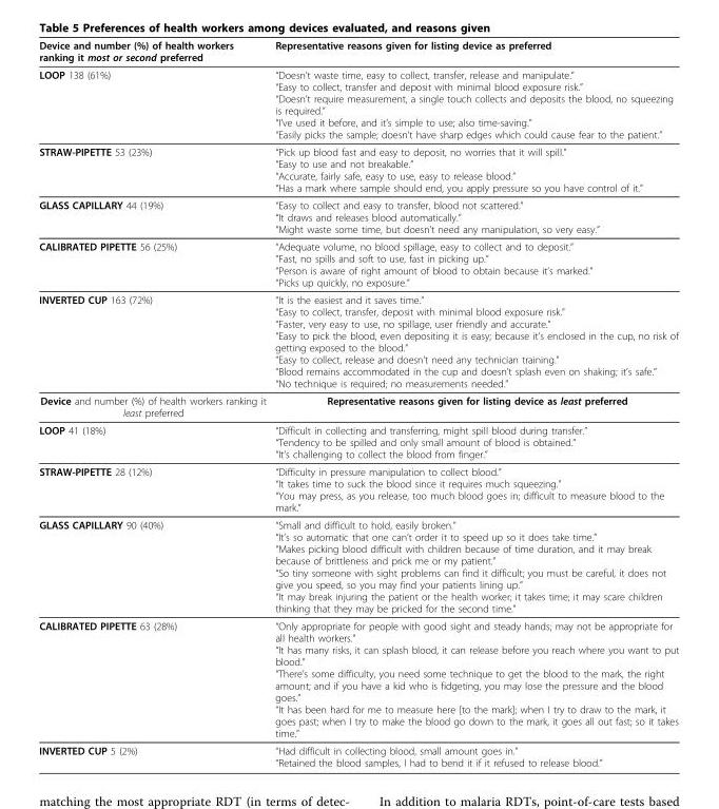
<table><thead><tr><td>Device and number (%) of health workers ranking it most or second preferred</td><td>Representative reasons given for listing device as preferred</td></tr></thead><tbody><tr><td>LOOP 138 (61%)</td><td>“Doesn’t waste time, easy to collect, transfer, release and manipulate.” “Easy to collect, transfer and deposit with minimal blood exposure risk.” “Doesn’t require measurement, a single touch collects and deposits the blood, no squeezing is required.” “I’ve used it before, and it’s simple to use; also time-saving.” “Easily picks the sample; doesn’t have sharp edges which could cause fear to the patient.”</td></tr><tr><td>STRAW-PIPETTE 53 (23%)</td><td>“Pick up blood fast and easy to deposit, no worries that it will spill.” “Easy to use and not breakable.” “Accurate, fairly safe, easy to use, easy to release blood.” “Has a mark where sample should end, you apply pressure so you have control of it.”</td></tr><tr><td>GLASS CAPILLARY 44 (19%)</td><td>“Easy to collect and easy to transfer, blood not scattered.” “It draws and releases blood automatically.” “Might waste some time, but doesn’t need any manipulation, so very easy.”</td></tr><tr><td>CALIBRATED PIPETTE 56 (25%)</td><td>“Adequate volume, no blood spillage, easy to collect and to deposit.” “Fast, no spills and soft to use, fast in picking up.” “Person is aware of right amount of blood to obtain because it’s marked.” “Picks up quickly, no exposure.”</td></tr><tr><td>INVERTED CUP 163 (72%)</td><td>“It is the easiest and it saves time.” “Easy to collect, transfer, deposit with minimal blood exposure risk.” “Faster, very easy to use, no spillage, user friendly and accurate.” “Easy to pick the blood, even depositing it is easy; because it’s enclosed in the cup, no risk of getting exposed to the blood.” “Easy to collect, release and doesn’t need any technician training.” “Blood remains accommodated in the cup and doesn’t splash even on shaking; it’s safe.” “No technique is required; no measurements needed.”</td></tr><tr><td>Device and number (%) of health workers ranking it least preferred</td><td>Representative reasons given for listing device as least preferred</td></tr><tr><td>LOOP 41 (18%)</td><td>“Difficult in collecting and transferring, might spill blood during transfer.” “Tendency to be spilled and only small amount of blood is obtained.” “It’s challenging to collect the blood from finger.”</td></tr><tr><td>STRAW-PIPETTE 28 (12%)</td><td>“Difficulty in pressure manipulation to collect blood.” “It takes time to suck the blood since it requires much squeezing.” “You may press, as you release, too much blood goes in; difficult to measure blood to the mark.”</td></tr><tr><td>GLASS CAPILLARY 90 (40%)</td><td>“Small and difficult to hold, easily broken.” “It’s so automatic that one can’t order it to speed up so it does take time.” “Makes picking blood difficult with children because of time duration, and it may break because of brittleness and prick me or my patient.” “So tiny someone with sight problems can find it difficult; you must be careful, it does not give you speed, so you may find your patients lining up.” “It may break injuring the patient or the health worker; it takes time; it may scare children thinking that they may be pricked for the second time.”</td></tr><tr><td>CALIBRATED PIPETTE 63 (28%)</td><td>“Only appropriate for people with good sight and steady hands; may not be appropriate for all health workers.” “It has many risks, it can splash blood, it can release before you reach where you want to put blood.” “There’s some difficulty, you need some technique to get the blood to the mark, the right amount; and if you have a kid who is fidgeting, you may lose the pressure and the blood goes.” “It has been hard for me to measure here [to the mark]; when I try to draw to the mark, it goes past; when I try to make the blood go down to the mark, it goes all out fast; so it takes time.”</td></tr><tr><td>INVERTED CUP 5 (2%)</td><td>“Had difficult in collecting blood, small amount goes in.” “Retained the blood samples, I had to bend it if it refused to release blood.”</td></tr></tbody></table>